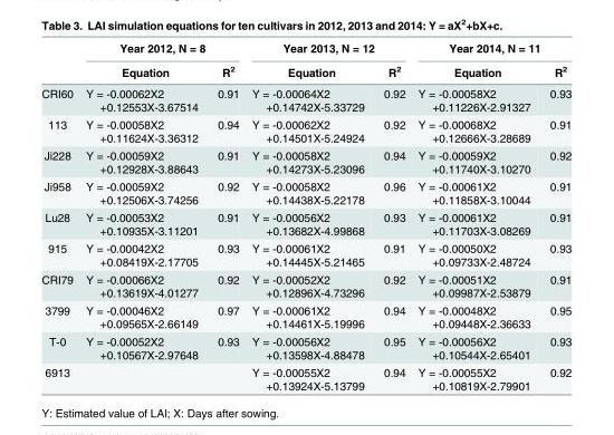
<table><thead><tr><td rowspan="2"></td><td colspan="2">Year 2012, N = 8</td><td colspan="2">Year 2013, N = 12</td><td colspan="2">Year 2014, N = 11</td></tr><tr><td>Equation</td><td>R<sup>2</sup></td><td>Equation</td><td>R<sup>2</sup></td><td>Equation</td><td>R<sup>2</sup></td></tr></thead><tbody><tr><td>CRI60</td><td>Y = -0.00062X2 +0.12553X-3.67514</td><td>0.91</td><td>Y = -0.00064X2 +0.14742X-5.33729</td><td>0.92</td><td>Y = -0.00058X2 +0.11226X-2.91327</td><td>0.93</td></tr><tr><td>113</td><td>Y = -0.00058X2 +0.11624X-3.36312</td><td>0.94</td><td>Y = -0.00062X2 +0.14501X-5.24924</td><td>0.92</td><td>Y = -0.00068X2 +0.12666X-3.28689</td><td>0.91</td></tr><tr><td>Ji228</td><td>Y = -0.00059X2 +0.12928X-3.88643</td><td>0.91</td><td>Y = -0.00058X2 +0.14273X-5.23096</td><td>0.94</td><td>Y = -0.00059X2 +0.11740X-3.10270</td><td>0.92</td></tr><tr><td>Ji958</td><td>Y = -0.00059X2 +0.12506X-3.74256</td><td>0.92</td><td>Y = -0.00058X2 +0.14438X-5.22178</td><td>0.96</td><td>Y = -0.00061X2 +0.11858X-3.10044</td><td>0.91</td></tr><tr><td>Lu28</td><td>Y = -0.00053X2 +0.10935X-3.11201</td><td>0.91</td><td>Y = -0.00056X2 +0.13682X-4.99868</td><td>0.93</td><td>Y = -0.00061X2 +0.11703X-3.08269</td><td>0.91</td></tr><tr><td>915</td><td>Y = -0.00042X2 +0.08419X-2.17705</td><td>0.93</td><td>Y = -0.00061X2 +0.14445X-5.21465</td><td>0.91</td><td>Y = -0.00050X2 +0.09733X-2.48724</td><td>0.93</td></tr><tr><td>CRI79</td><td>Y = -0.00066X2 +0.13619X-4.01277</td><td>0.92</td><td>Y = -0.00052X2 +0.12896X-4.73296</td><td>0.92</td><td>Y = -0.00051X2 +0.09987X-2.53879</td><td>0.91</td></tr><tr><td>3799</td><td>Y = -0.00046X2 +0.09565X-2.66149</td><td>0.97</td><td>Y = -0.00061X2 +0.14461X-5.19996</td><td>0.94</td><td>Y = -0.00048X2 +0.09448X-2.36633</td><td>0.95</td></tr><tr><td>T-0</td><td>Y = -0.00052X2 +0.10567X-2.97648</td><td>0.93</td><td>Y = -0.00056X2 +0.13598X-4.88478</td><td>0.95</td><td>Y = -0.00056X2 +0.10544X-2.65401</td><td>0.93</td></tr><tr><td>6913</td><td></td><td></td><td>Y = -0.00055X2 +0.13924X-5.13799</td><td>0.94</td><td>Y = -0.00055X2 +0.10819X-2.79901</td><td>0.92</td></tr></tbody></table>